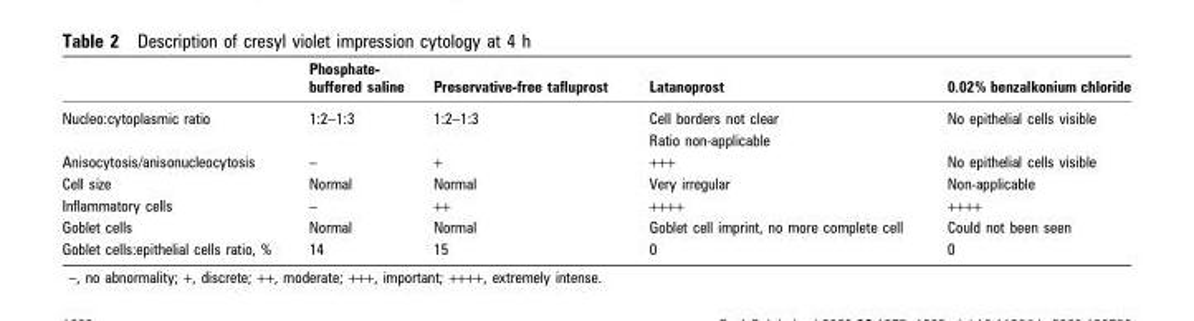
<table><thead><tr><td></td><td>Phosphate- buffered saline</td><td>Preservative-free tafluprost</td><td>Latanoprost</td><td>0.02% benzalkonium chloride</td></tr></thead><tbody><tr><td rowspan="2">Nucleo:cytoplasmic ratio</td><td>1:2–1:3</td><td>1:2–1:3</td><td>Cell borders not clear</td><td>No epithelial cells visible</td></tr><tr><td></td><td></td><td>Ratio non-applicable</td><td></td></tr><tr><td>Anisocytosis/anisonucleocytosis</td><td>–</td><td>+</td><td>+++</td><td>No epithelial cells visible</td></tr><tr><td>Cell size</td><td>Normal</td><td>Normal</td><td>Very irregular</td><td>Non-applicable</td></tr><tr><td>Inflammatory cells</td><td>–</td><td>++</td><td>++++</td><td>++++</td></tr><tr><td>Goblet cells</td><td>Normal</td><td>Normal</td><td>Goblet cell imprint, no more complete cell</td><td>Could not been seen</td></tr><tr><td>Goblet cells:epithelial cells ratio, %</td><td>14</td><td>15</td><td>0</td><td>0</td></tr></tbody></table>